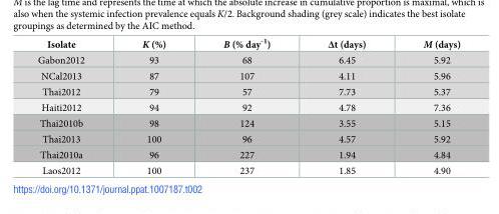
<table><thead><tr><td>Isolate</td><td>K (%)</td><td>B (% day<sup>-1</sup>)</td><td>Δt (days)</td><td>M (days)</td></tr></thead><tbody><tr><td>Gabon2012</td><td>93</td><td>68</td><td>6.45</td><td>5.92</td></tr><tr><td>NCal2013</td><td>87</td><td>107</td><td>4.11</td><td>5.96</td></tr><tr><td>Thai2012</td><td>79</td><td>57</td><td>7.73</td><td>5.37</td></tr><tr><td>Haiti2012</td><td>94</td><td>92</td><td>4.78</td><td>7.36</td></tr><tr><td>Thai2010b</td><td>98</td><td>124</td><td>3.55</td><td>5.15</td></tr><tr><td>Thai2013</td><td>100</td><td>96</td><td>4.57</td><td>5.92</td></tr><tr><td>Thai2010a</td><td>96</td><td>227</td><td>1.94</td><td>4.84</td></tr><tr><td>Laos2012</td><td>100</td><td>237</td><td>1.85</td><td>4.90</td></tr></tbody></table>